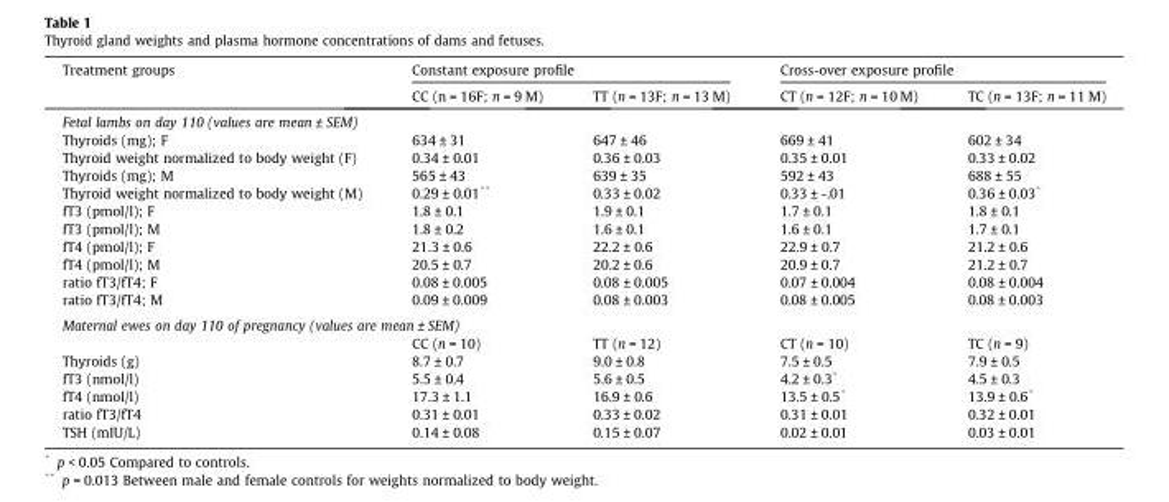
<table><thead><tr><td rowspan="2">Treatment groups</td><td colspan="2">Constant exposure profile</td><td colspan="2">Cross-over exposure profile</td></tr><tr><td>CC (n = 16F; n = 9 M)</td><td>TT (n = 13F; n = 13 M)</td><td>CT (n = 12F; n = 10 M)</td><td>TC (n = 13F; n = 11 M)</td></tr></thead><tbody><tr><td colspan="5">Fetal lambs on day 110 (values are mean ± SEM)</td></tr><tr><td>Thyroids (mg); F</td><td>634 ± 31</td><td>647 ± 46</td><td>669 ± 41</td><td>602 ± 34</td></tr><tr><td>Thyroid weight normalized to body weight (F)</td><td>0.34 ± 0.01</td><td>0.36 ± 0.03</td><td>0.35 ± 0.01</td><td>0.33 ± 0.02</td></tr><tr><td>Thyroids (mg); M</td><td>565 ± 43</td><td>639 ± 35</td><td>592 ± 43</td><td>688 ± 55</td></tr><tr><td>Thyroid weight normalized to body weight (M)</td><td>0.29 ± 0.01**</td><td>0.33 ± 0.02</td><td>0.33 ± -.01</td><td>0.36 ± 0.03*</td></tr><tr><td>fT3 (pmol/l); F</td><td>1.8 ± 0.1</td><td>1.9 ± 0.1</td><td>1.7 ± 0.1</td><td>1.8 ± 0.1</td></tr><tr><td>fT3 (pmol/l); M</td><td>1.8 ± 0.2</td><td>1.6 ± 0.1</td><td>1.6 ± 0.1</td><td>1.7 ± 0.1</td></tr><tr><td>fT4 (pmol/l); F</td><td>21.3 ± 0.6</td><td>22.2 ± 0.6</td><td>22.9 ± 0.7</td><td>21.2 ± 0.6</td></tr><tr><td>fT4 (pmol/l); M</td><td>20.5 ± 0.7</td><td>20.2 ± 0.6</td><td>20.9 ± 0.7</td><td>21.2 ± 0.7</td></tr><tr><td>ratio fT3/fT4; F</td><td>0.08 ± 0.005</td><td>0.08 ± 0.005</td><td>0.07 ± 0.004</td><td>0.08 ± 0.004</td></tr><tr><td>ratio fT3/fT4; M</td><td>0.09 ± 0.009</td><td>0.08 ± 0.003</td><td>0.08 ± 0.005</td><td>0.08 ± 0.003</td></tr><tr><td colspan="5">Maternal ewes on day 110 of pregnancy (values are mean ± SEM)</td></tr><tr><td></td><td>CC (n = 10)</td><td>TT (n = 12)</td><td>CT (n = 10)</td><td>TC (n = 9)</td></tr><tr><td>Thyroids (g)</td><td>8.7 ± 0.7</td><td>9.0 ± 0.8</td><td>7.5 ± 0.5</td><td>7.9 ± 0.5</td></tr><tr><td>fT3 (nmol/l)</td><td>5.5 ± 0.4</td><td>5.6 ± 0.5</td><td>4.2 ± 0.3*</td><td>4.5 ± 0.3</td></tr><tr><td>fT4 (nmol/l)</td><td>17.3 ± 1.1</td><td>16.9 ± 0.6</td><td>13.5 ± 0.5*</td><td>13.9 ± 0.6*</td></tr><tr><td>ratio fT3/fT4</td><td>0.31 ± 0.01</td><td>0.33 ± 0.02</td><td>0.31 ± 0.01</td><td>0.32 ± 0.01</td></tr><tr><td>TSH (mIU/L)</td><td>0.14 ± 0.08</td><td>0.15 ± 0.07</td><td>0.02 ± 0.01</td><td>0.03 ± 0.01</td></tr></tbody></table>